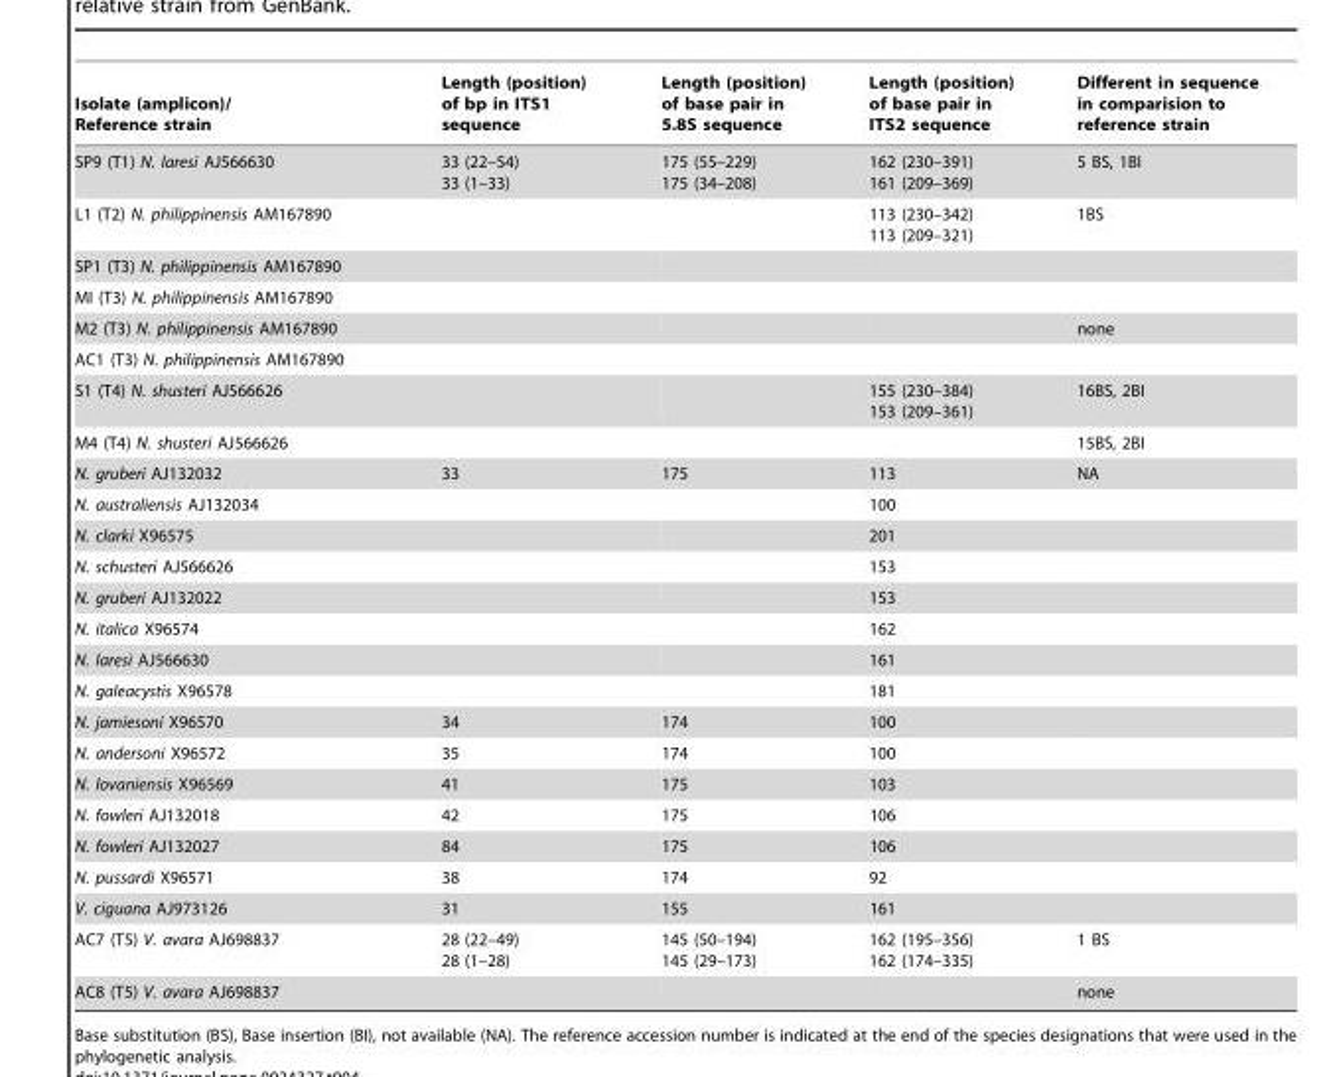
<table><thead><tr><td>Isolate (amplicon)/ Reference strain</td><td>Length (position) of bp in ITS1 sequence</td><td>Length (position) of base pair in 5.8S sequence</td><td>Length (position) of base pair in ITS2 sequence</td><td>Different in sequence in comparision to reference strain</td></tr></thead><tbody><tr><td>SP9 (T1) N. laresi AJ566630</td><td>33 (22–54) 33 (1–33)</td><td>175 (55–229) 175 (34–208)</td><td>162 (230–391) 161 (209–369)</td><td>5 BS, 1BI</td></tr><tr><td>L1 (T2) N. philippinensis AM167890</td><td></td><td></td><td>113 (230–342) 113 (209–321)</td><td>1BS</td></tr><tr><td colspan="5">SP1 (T3) N. philippinensis AM167890</td></tr><tr><td colspan="5">MI (T3) N. philippinensis AM167890</td></tr><tr><td>M2 (T3) N. philippinensis AM167890</td><td></td><td></td><td></td><td>none</td></tr><tr><td colspan="5">AC1 (T3) N. philippinensis AM167890</td></tr><tr><td>S1 (T4) N. shusteri AJ566626</td><td></td><td></td><td>155 (230–384) 153 (209–361)</td><td>16BS, 2BI</td></tr><tr><td>M4 (T4) N. shusteri AJ566626</td><td></td><td></td><td></td><td>15BS, 2BI</td></tr><tr><td>N. gruberi AJ132032</td><td>33</td><td>175</td><td>113</td><td>NA</td></tr><tr><td>N. australiensis AJ132034</td><td></td><td></td><td>100</td><td></td></tr><tr><td>N. clarki X96575</td><td></td><td></td><td>201</td><td></td></tr><tr><td>N. schusteri AJ566626</td><td></td><td></td><td>153</td><td></td></tr><tr><td>N. gruberi AJ132022</td><td></td><td></td><td>153</td><td></td></tr><tr><td>N. italica X96574</td><td></td><td></td><td>162</td><td></td></tr><tr><td>N. laresi AJ566630</td><td></td><td></td><td>161</td><td></td></tr><tr><td>N. galeacystis X96578</td><td></td><td></td><td>181</td><td></td></tr><tr><td>N. jamiesoni X96570</td><td>34</td><td>174</td><td>100</td><td></td></tr><tr><td>N. andersoni X96572</td><td>35</td><td>174</td><td>100</td><td></td></tr><tr><td>N. lovaniensis X96569</td><td>41</td><td>175</td><td>103</td><td></td></tr><tr><td>N. fowleri AJ132018</td><td>42</td><td>175</td><td>106</td><td></td></tr><tr><td>N. fowleri AJ132027</td><td>84</td><td>175</td><td>106</td><td></td></tr><tr><td>N. pussardi X96571</td><td>38</td><td>174</td><td>92</td><td></td></tr><tr><td>V. ciguana AJ973126</td><td>31</td><td>155</td><td>161</td><td></td></tr><tr><td>AC7 (T5) V. avara AJ698837</td><td>28 (22–49) 28 (1–28)</td><td>145 (50–194) 145 (29–173)</td><td>162 (195–356) 162 (174–335)</td><td>1 BS</td></tr><tr><td>AC8 (T5) V. avara AJ698837</td><td></td><td></td><td></td><td>none</td></tr></tbody></table>